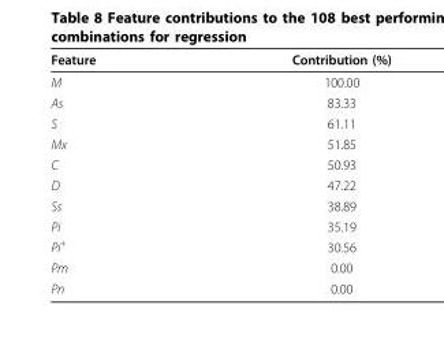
<table><thead><tr><td>Feature</td><td>Contribution (%)</td></tr></thead><tbody><tr><td>M</td><td>100.00</td></tr><tr><td>As</td><td>83.33</td></tr><tr><td>S</td><td>61.11</td></tr><tr><td>Mx</td><td>51.85</td></tr><tr><td>C</td><td>50.93</td></tr><tr><td>D</td><td>47.22</td></tr><tr><td>Ss</td><td>38.89</td></tr><tr><td>Pi</td><td>35.19</td></tr><tr><td>Pi<sup>+</sup></td><td>30.56</td></tr><tr><td>Pm</td><td>0.00</td></tr><tr><td>Pn</td><td>0.00</td></tr></tbody></table>